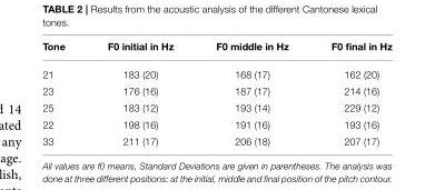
<table><thead><tr><td>Tone</td><td>F0 initial in Hz</td><td>F0 middle in Hz</td><td>F0 final in Hz</td></tr></thead><tbody><tr><td>21</td><td>183 (20)</td><td>168 (17)</td><td>162 (20)</td></tr><tr><td>23</td><td>176 (16)</td><td>187 (17)</td><td>214 (16)</td></tr><tr><td>25</td><td>183 (12)</td><td>193 (14)</td><td>229 (12)</td></tr><tr><td>22</td><td>198 (16)</td><td>191 (16)</td><td>193 (16)</td></tr><tr><td>33</td><td>211 (17)</td><td>206 (18)</td><td>207 (17)</td></tr></tbody></table>